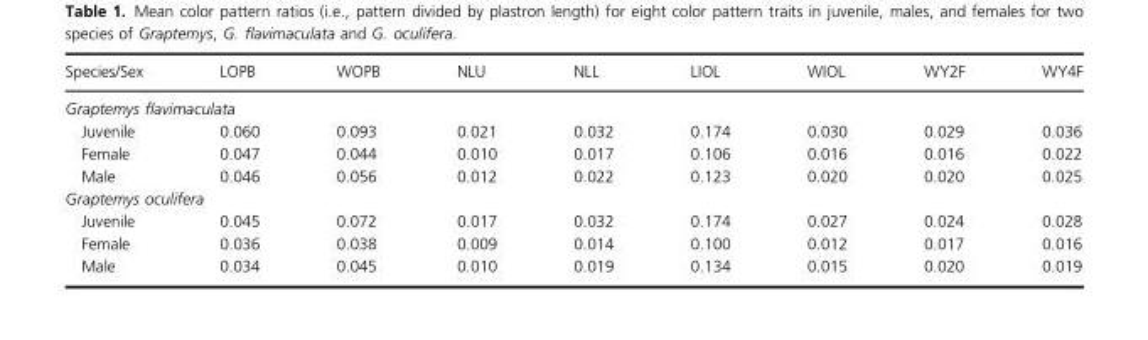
<table><thead><tr><td>Species/Sex</td><td>LOPB</td><td>WOPB</td><td>NLU</td><td>NLL</td><td>LIOL</td><td>WIOL</td><td>WY2F</td><td>WY4F</td></tr></thead><tbody><tr><td colspan="9">Graptemys flavimaculata</td></tr><tr><td>Juvenile</td><td>0.060</td><td>0.093</td><td>0.021</td><td>0.032</td><td>0.174</td><td>0.030</td><td>0.029</td><td>0.036</td></tr><tr><td>Female</td><td>0.047</td><td>0.044</td><td>0.010</td><td>0.017</td><td>0.106</td><td>0.016</td><td>0.016</td><td>0.022</td></tr><tr><td>Male</td><td>0.046</td><td>0.056</td><td>0.012</td><td>0.022</td><td>0.123</td><td>0.020</td><td>0.020</td><td>0.025</td></tr><tr><td colspan="9">Graptemys oculifera</td></tr><tr><td>Juvenile</td><td>0.045</td><td>0.072</td><td>0.017</td><td>0.032</td><td>0.174</td><td>0.027</td><td>0.024</td><td>0.028</td></tr><tr><td>Female</td><td>0.036</td><td>0.038</td><td>0.009</td><td>0.014</td><td>0.100</td><td>0.012</td><td>0.017</td><td>0.016</td></tr><tr><td>Male</td><td>0.034</td><td>0.045</td><td>0.010</td><td>0.019</td><td>0.134</td><td>0.015</td><td>0.020</td><td>0.019</td></tr></tbody></table>